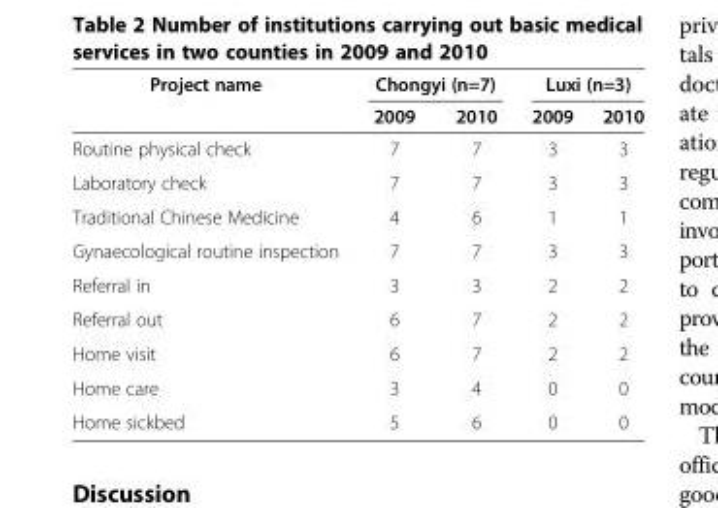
<table><thead><tr><td rowspan="2">Project name</td><td colspan="2">Chongyi (n=7)</td><td colspan="2">Luxi (n=3)</td></tr><tr><td>2009</td><td>2010</td><td>2009</td><td>2010</td></tr></thead><tbody><tr><td>Routine physical check</td><td>7</td><td>7</td><td>3</td><td>3</td></tr><tr><td>Laboratory check</td><td>7</td><td>7</td><td>3</td><td>3</td></tr><tr><td>Traditional Chinese Medicine</td><td>4</td><td>6</td><td>1</td><td>1</td></tr><tr><td>Gynaecological routine inspection</td><td>7</td><td>7</td><td>3</td><td>3</td></tr><tr><td>Referral in</td><td>3</td><td>3</td><td>2</td><td>2</td></tr><tr><td>Referral out</td><td>6</td><td>7</td><td>2</td><td>2</td></tr><tr><td>Home visit</td><td>6</td><td>7</td><td>2</td><td>2</td></tr><tr><td>Home care</td><td>3</td><td>4</td><td>0</td><td>0</td></tr><tr><td>Home sickbed</td><td>5</td><td>6</td><td>0</td><td>0</td></tr></tbody></table>